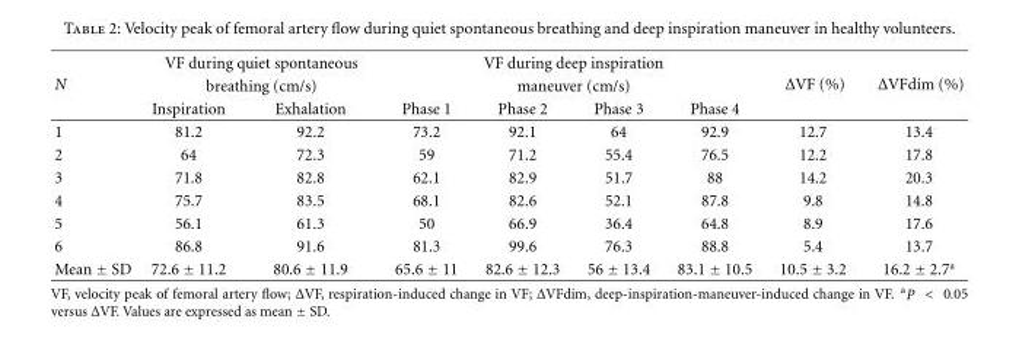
<table><thead><tr><td rowspan="3">N</td><td rowspan="2" colspan="2">VF during quiet spontaneous breathing (cm/s)</td><td rowspan="2" colspan="4">VF during deep inspiration maneuver (cm/s)</td><td rowspan="3">ΔVF (%)</td><td rowspan="3">ΔVFdim (%)</td></tr><tr></tr><tr><td>Inspiration</td><td>Exhalation</td><td>Phase 1</td><td>Phase 2</td><td>Phase 3</td><td>Phase 4</td></tr></thead><tbody><tr><td>1</td><td>81.2</td><td>92.2</td><td>73.2</td><td>92.1</td><td>64</td><td>92.9</td><td>12.7</td><td>13.4</td></tr><tr><td>2</td><td>64</td><td>72.3</td><td>59</td><td>71.2</td><td>55.4</td><td>76.5</td><td>12.2</td><td>17.8</td></tr><tr><td>3</td><td>71.8</td><td>82.8</td><td>62.1</td><td>82.9</td><td>51.7</td><td>88</td><td>14.2</td><td>20.3</td></tr><tr><td>4</td><td>75.7</td><td>83.5</td><td>68.1</td><td>82.6</td><td>52.1</td><td>87.8</td><td>9.8</td><td>14.8</td></tr><tr><td>5</td><td>56.1</td><td>61.3</td><td>50</td><td>66.9</td><td>36.4</td><td>64.8</td><td>8.9</td><td>17.6</td></tr><tr><td>6</td><td>86.8</td><td>91.6</td><td>81.3</td><td>99.6</td><td>76.3</td><td>88.8</td><td>5.4</td><td>13.7</td></tr><tr><td>Mean ± SD</td><td>72.6 ± 11.2</td><td>80.6 ± 11.9</td><td>65.6 ± 11</td><td>82.6 ± 12.3</td><td>56 ± 13.4</td><td>83.1 ± 10.5</td><td>10.5 ± 3.2</td><td>16.2 ± 2.7<sup>a</sup></td></tr></tbody></table>